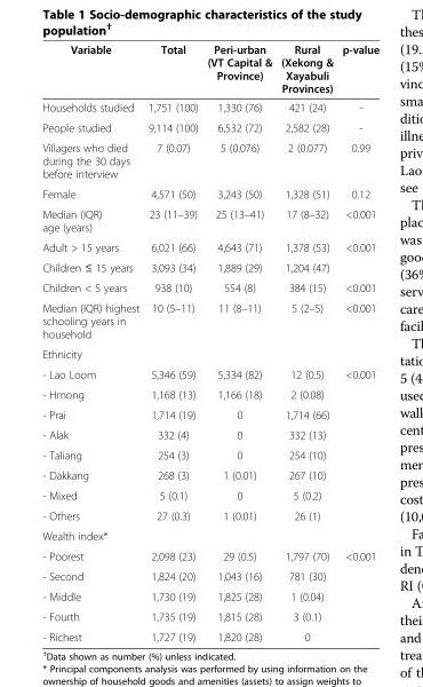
<table><thead><tr><td>Variable</td><td>Total</td><td>Peri-urban (VT Capital &amp; Province)</td><td>Rural (Xekong &amp; Xayabuli Provinces)</td><td>p-value</td></tr></thead><tbody><tr><td>Households studied</td><td>1,751 (100)</td><td>1,330 (76)</td><td>421 (24)</td><td>-</td></tr><tr><td>People studied</td><td>9,114 (100)</td><td>6,532 (72)</td><td>2,582 (28)</td><td>-</td></tr><tr><td>Villagers who died during the 30 days before interview</td><td>7 (0.07)</td><td>5 (0.076)</td><td>2 (0.077)</td><td>0.99</td></tr><tr><td>Female</td><td>4,571 (50)</td><td>3,243 (50)</td><td>1,328 (51)</td><td>0.12</td></tr><tr><td>Median (IQR) age (years)</td><td>23 (11–39)</td><td>25 (13–41)</td><td>17 (8–32)</td><td>&lt;0.001</td></tr><tr><td>Adult &gt; 15 years</td><td>6,021 (66)</td><td>4,643 (71)</td><td>1,378 (53)</td><td rowspan="2">&lt;0.001</td></tr><tr><td>Children ≤ 15 years</td><td>3,093 (34)</td><td>1,889 (29)</td><td>1,204 (47)</td></tr><tr><td>Children &lt; 5 years</td><td>938 (10)</td><td>554 (8)</td><td>384 (15)</td><td>&lt;0.001</td></tr><tr><td>Median (IQR) highest schooling years in household</td><td>10 (5–11)</td><td>11 (8–11)</td><td>5 (2–5)</td><td>&lt;0.001</td></tr><tr><td colspan="5">Ethnicity</td></tr><tr><td>- Lao Loom</td><td>5,346 (59)</td><td>5,334 (82)</td><td>12 (0.5)</td><td>&lt;0.001</td></tr><tr><td>- Hmong</td><td>1,168 (13)</td><td>1,166 (18)</td><td>2 (0.08)</td><td rowspan="7"></td></tr><tr><td>- Prai</td><td>1,714 (19)</td><td>0</td><td>1,714 (66)</td></tr><tr><td>- Alak</td><td>332 (4)</td><td>0</td><td>332 (13)</td></tr><tr><td>- Taliang</td><td>254 (3)</td><td>0</td><td>254 (10)</td></tr><tr><td>- Dakkang</td><td>268 (3)</td><td>1 (0.01)</td><td>267 (10)</td></tr><tr><td>- Mixed</td><td>5 (0.1)</td><td>0</td><td>5 (0.2)</td></tr><tr><td>- Others</td><td>27 (0.3)</td><td>1 (0.01)</td><td>26 (1)</td></tr><tr><td colspan="5">Wealth index*</td></tr><tr><td>- Poorest</td><td>2,098 (23)</td><td>29 (0.5)</td><td>1,797 (70)</td><td>&lt;0.001</td></tr><tr><td>- Second</td><td>1,824 (20)</td><td>1,043 (16)</td><td>781 (30)</td><td></td></tr><tr><td>- Middle</td><td>1,730 (19)</td><td>1,825 (28)</td><td>1 (0.04)</td><td></td></tr><tr><td>- Fourth</td><td>1,735 (19)</td><td>1,815 (28)</td><td>3 (0.1)</td><td></td></tr><tr><td>- Richest</td><td>1,727 (19)</td><td>1,820 (28)</td><td>0</td><td></td></tr></tbody></table>